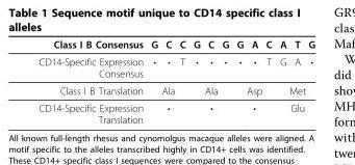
<table><thead><tr><td>Class I B Consensus</td><td>G</td><td>C</td><td>C</td><td>G</td><td>C</td><td>G</td><td>G</td><td>A</td><td>C</td><td>A</td><td>T</td><td>G</td></tr></thead><tbody><tr><td>CD14-Specific Expression Consensus</td><td>•</td><td>•</td><td>T</td><td>•</td><td>•</td><td>•</td><td>•</td><td>•</td><td>T</td><td>G</td><td>A</td><td>•</td></tr><tr><td>Class I B Translation</td><td colspan="3">Ala</td><td colspan="3">Ala</td><td colspan="3">Asp</td><td colspan="3">Met</td></tr><tr><td>CD14-Specific Expression Translation</td><td colspan="3">•</td><td colspan="3">•</td><td colspan="3">•</td><td colspan="3">Glu</td></tr></tbody></table>